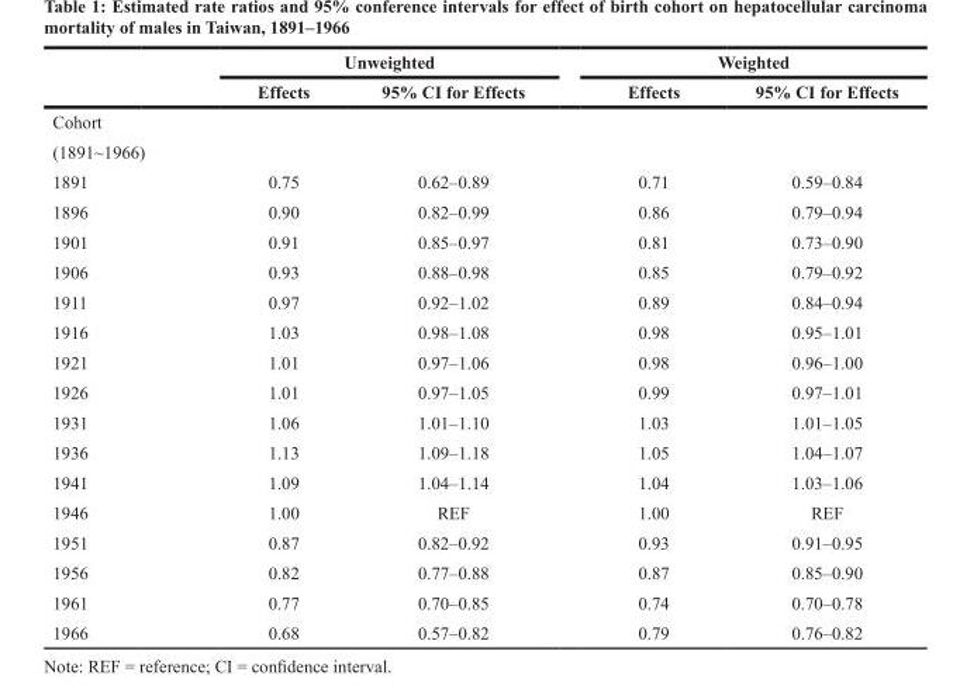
<table><thead><tr><td rowspan="2"></td><td colspan="2">Unweighted</td><td colspan="2">Weighted</td></tr><tr><td>Effects</td><td>95% CI for Effects</td><td>Effects</td><td>95% CI for Effects</td></tr></thead><tbody><tr><td colspan="5">Cohort</td></tr><tr><td colspan="5">(1891~1966)</td></tr><tr><td>1891</td><td>0.75</td><td>0.62–0.89</td><td>0.71</td><td>0.59–0.84</td></tr><tr><td>1896</td><td>0.90</td><td>0.82–0.99</td><td>0.86</td><td>0.79–0.94</td></tr><tr><td>1901</td><td>0.91</td><td>0.85–0.97</td><td>0.81</td><td>0.73–0.90</td></tr><tr><td>1906</td><td>0.93</td><td>0.88–0.98</td><td>0.85</td><td>0.79–0.92</td></tr><tr><td>1911</td><td>0.97</td><td>0.92–1.02</td><td>0.89</td><td>0.84–0.94</td></tr><tr><td>1916</td><td>1.03</td><td>0.98–1.08</td><td>0.98</td><td>0.95–1.01</td></tr><tr><td>1921</td><td>1.01</td><td>0.97–1.06</td><td>0.98</td><td>0.96–1.00</td></tr><tr><td>1926</td><td>1.01</td><td>0.97–1.05</td><td>0.99</td><td>0.97–1.01</td></tr><tr><td>1931</td><td>1.06</td><td>1.01–1.10</td><td>1.03</td><td>1.01–1.05</td></tr><tr><td>1936</td><td>1.13</td><td>1.09–1.18</td><td>1.05</td><td>1.04–1.07</td></tr><tr><td>1941</td><td>1.09</td><td>1.04–1.14</td><td>1.04</td><td>1.03–1.06</td></tr><tr><td>1946</td><td>1.00</td><td>REF</td><td>1.00</td><td>REF</td></tr><tr><td>1951</td><td>0.87</td><td>0.82–0.92</td><td>0.93</td><td>0.91–0.95</td></tr><tr><td>1956</td><td>0.82</td><td>0.77–0.88</td><td>0.87</td><td>0.85–0.90</td></tr><tr><td>1961</td><td>0.77</td><td>0.70–0.85</td><td>0.74</td><td>0.70–0.78</td></tr><tr><td>1966</td><td>0.68</td><td>0.57–0.82</td><td>0.79</td><td>0.76–0.82</td></tr></tbody></table>